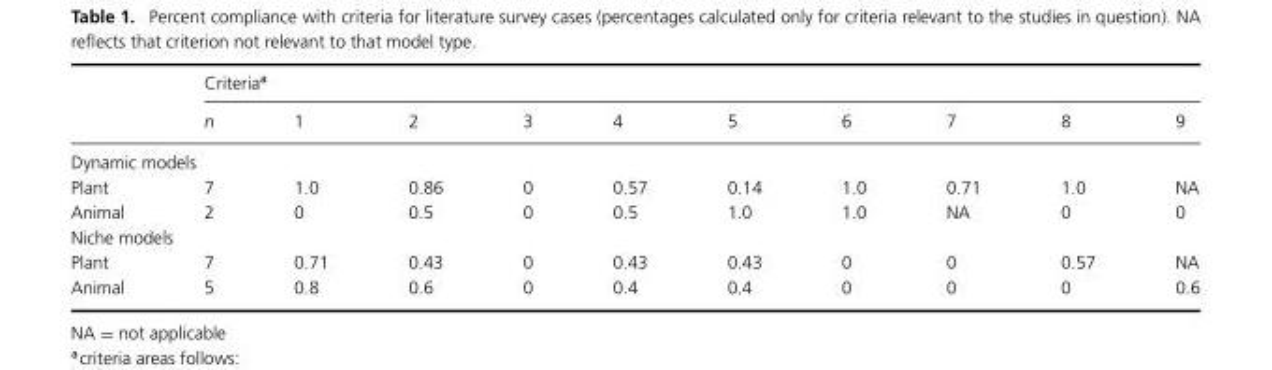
<table><thead><tr><td rowspan="2"></td><td colspan="10">Criteria<sup>a</sup></td></tr><tr><td>n</td><td>1</td><td>2</td><td>3</td><td>4</td><td>5</td><td>6</td><td>7</td><td>8</td><td>9</td></tr></thead><tbody><tr><td colspan="11">Dynamic models</td></tr><tr><td>Plant</td><td>7</td><td>1.0</td><td>0.86</td><td>0</td><td>0.57</td><td>0.14</td><td>1.0</td><td>0.71</td><td>1.0</td><td>NA</td></tr><tr><td>Animal</td><td>2</td><td>0</td><td>0.5</td><td>0</td><td>0.5</td><td>1.0</td><td>1.0</td><td>NA</td><td>0</td><td>0</td></tr><tr><td colspan="11">Niche models</td></tr><tr><td>Plant</td><td>7</td><td>0.71</td><td>0.43</td><td>0</td><td>0.43</td><td>0.43</td><td>0</td><td>0</td><td>0.57</td><td>NA</td></tr><tr><td>Animal</td><td>5</td><td>0.8</td><td>0.6</td><td>0</td><td>0.4</td><td>0.4</td><td>0</td><td>0</td><td>0</td><td>0.6</td></tr></tbody></table>